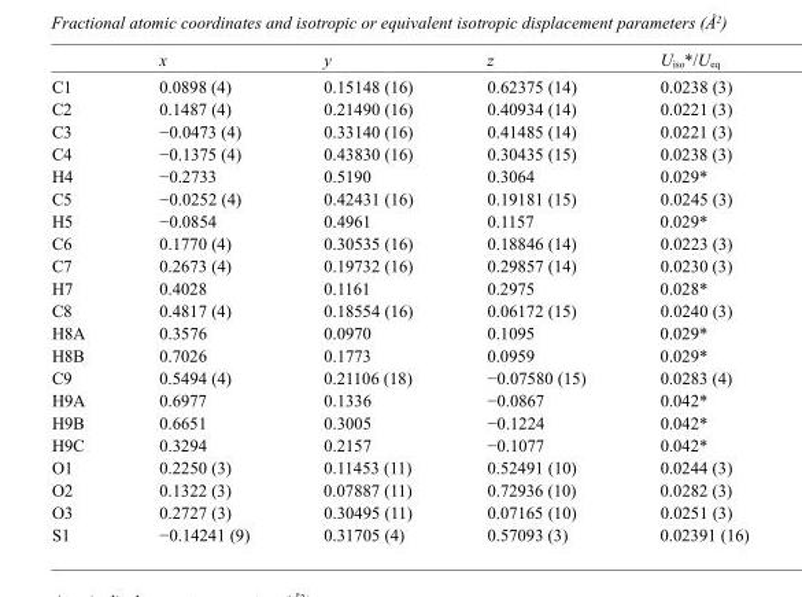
<table><thead><tr><td></td><td>x</td><td>y</td><td>z</td><td>U<sub>iso</sub>*/U<sub>eq</sub></td></tr></thead><tbody><tr><td>C1</td><td>0.0898 (4)</td><td>0.15148 (16)</td><td>0.62375 (14)</td><td>0.0238 (3)</td></tr><tr><td>C2</td><td>0.1487 (4)</td><td>0.21490 (16)</td><td>0.40934 (14)</td><td>0.0221 (3)</td></tr><tr><td>C3</td><td>−0.0473 (4)</td><td>0.33140 (16)</td><td>0.41485 (14)</td><td>0.0221 (3)</td></tr><tr><td>C4</td><td>−0.1375 (4)</td><td>0.43830 (16)</td><td>0.30435 (15)</td><td>0.0238 (3)</td></tr><tr><td>H4</td><td>−0.2733</td><td>0.5190</td><td>0.3064</td><td>0.029*</td></tr><tr><td>C5</td><td>−0.0252 (4)</td><td>0.42431 (16)</td><td>0.19181 (15)</td><td>0.0245 (3)</td></tr><tr><td>H5</td><td>−0.0854</td><td>0.4961</td><td>0.1157</td><td>0.029*</td></tr><tr><td>C6</td><td>0.1770 (4)</td><td>0.30535 (16)</td><td>0.18846 (14)</td><td>0.0223 (3)</td></tr><tr><td>C7</td><td>0.2673 (4)</td><td>0.19732 (16)</td><td>0.29857 (14)</td><td>0.0230 (3)</td></tr><tr><td>H7</td><td>0.4028</td><td>0.1161</td><td>0.2975</td><td>0.028*</td></tr><tr><td>C8</td><td>0.4817 (4)</td><td>0.18554 (16)</td><td>0.06172 (15)</td><td>0.0240 (3)</td></tr><tr><td>H8A</td><td>0.3576</td><td>0.0970</td><td>0.1095</td><td>0.029*</td></tr><tr><td>H8B</td><td>0.7026</td><td>0.1773</td><td>0.0959</td><td>0.029*</td></tr><tr><td>C9</td><td>0.5494 (4)</td><td>0.21106 (18)</td><td>−0.07580 (15)</td><td>0.0283 (4)</td></tr><tr><td>H9A</td><td>0.6977</td><td>0.1336</td><td>−0.0867</td><td>0.042*</td></tr><tr><td>H9B</td><td>0.6651</td><td>0.3005</td><td>−0.1224</td><td>0.042*</td></tr><tr><td>H9C</td><td>0.3294</td><td>0.2157</td><td>−0.1077</td><td>0.042*</td></tr><tr><td>O1</td><td>0.2250 (3)</td><td>0.11453 (11)</td><td>0.52491 (10)</td><td>0.0244 (3)</td></tr><tr><td>O2</td><td>0.1322 (3)</td><td>0.07887 (11)</td><td>0.72936 (10)</td><td>0.0282 (3)</td></tr><tr><td>O3</td><td>0.2727 (3)</td><td>0.30495 (11)</td><td>0.07165 (10)</td><td>0.0251 (3)</td></tr><tr><td>S1</td><td>−0.14241 (9)</td><td>0.31705 (4)</td><td>0.57093 (3)</td><td>0.02391 (16)</td></tr></tbody></table>